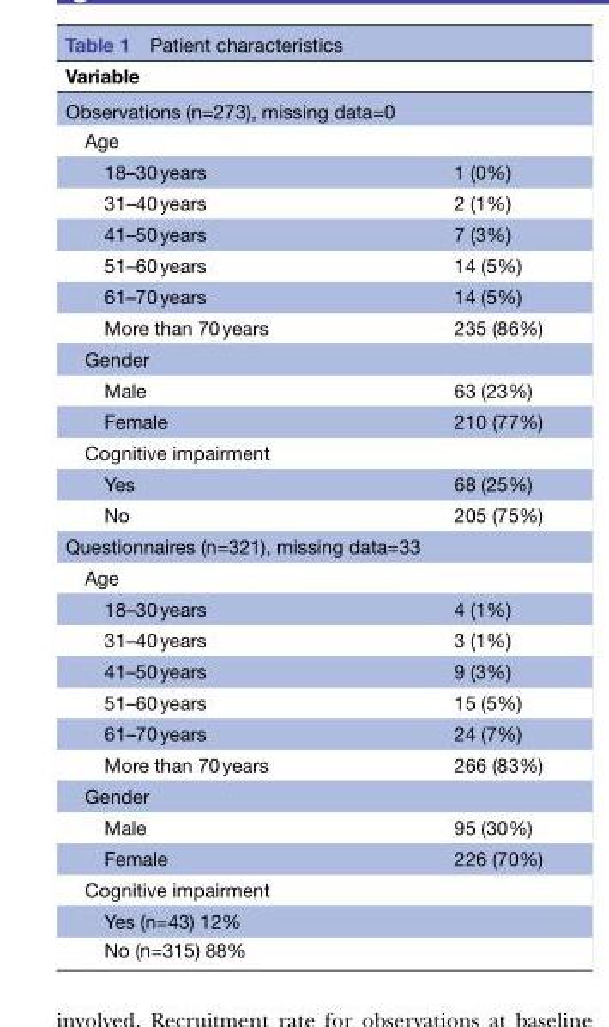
<table><thead><tr><td>Variable</td><td></td></tr></thead><tbody><tr><td colspan="2">Observations (n=273), missing data=0</td></tr><tr><td colspan="2">Age</td></tr><tr><td>18–30 years</td><td>1 (0%)</td></tr><tr><td>31–40 years</td><td>2 (1%)</td></tr><tr><td>41–50 years</td><td>7 (3%)</td></tr><tr><td>51–60 years</td><td>14 (5%)</td></tr><tr><td>61–70 years</td><td>14 (5%)</td></tr><tr><td>More than 70 years</td><td>235 (86%)</td></tr><tr><td colspan="2">Gender</td></tr><tr><td>Male</td><td>63 (23%)</td></tr><tr><td>Female</td><td>210 (77%)</td></tr><tr><td colspan="2">Cognitive impairment</td></tr><tr><td>Yes</td><td>68 (25%)</td></tr><tr><td>No</td><td>205 (75%)</td></tr><tr><td colspan="2">Questionnaires (n=321), missing data=33</td></tr><tr><td colspan="2">Age</td></tr><tr><td>18–30 years</td><td>4 (1%)</td></tr><tr><td>31–40 years</td><td>3 (1%)</td></tr><tr><td>41–50 years</td><td>9 (3%)</td></tr><tr><td>51–60 years</td><td>15 (5%)</td></tr><tr><td>61–70 years</td><td>24 (7%)</td></tr><tr><td>More than 70 years</td><td>266 (83%)</td></tr><tr><td colspan="2">Gender</td></tr><tr><td>Male</td><td>95 (30%)</td></tr><tr><td>Female</td><td>226 (70%)</td></tr><tr><td colspan="2">Cognitive impairment</td></tr><tr><td colspan="2">Yes (n=43) 12%</td></tr><tr><td>No (n=315) 88%</td><td></td></tr></tbody></table>